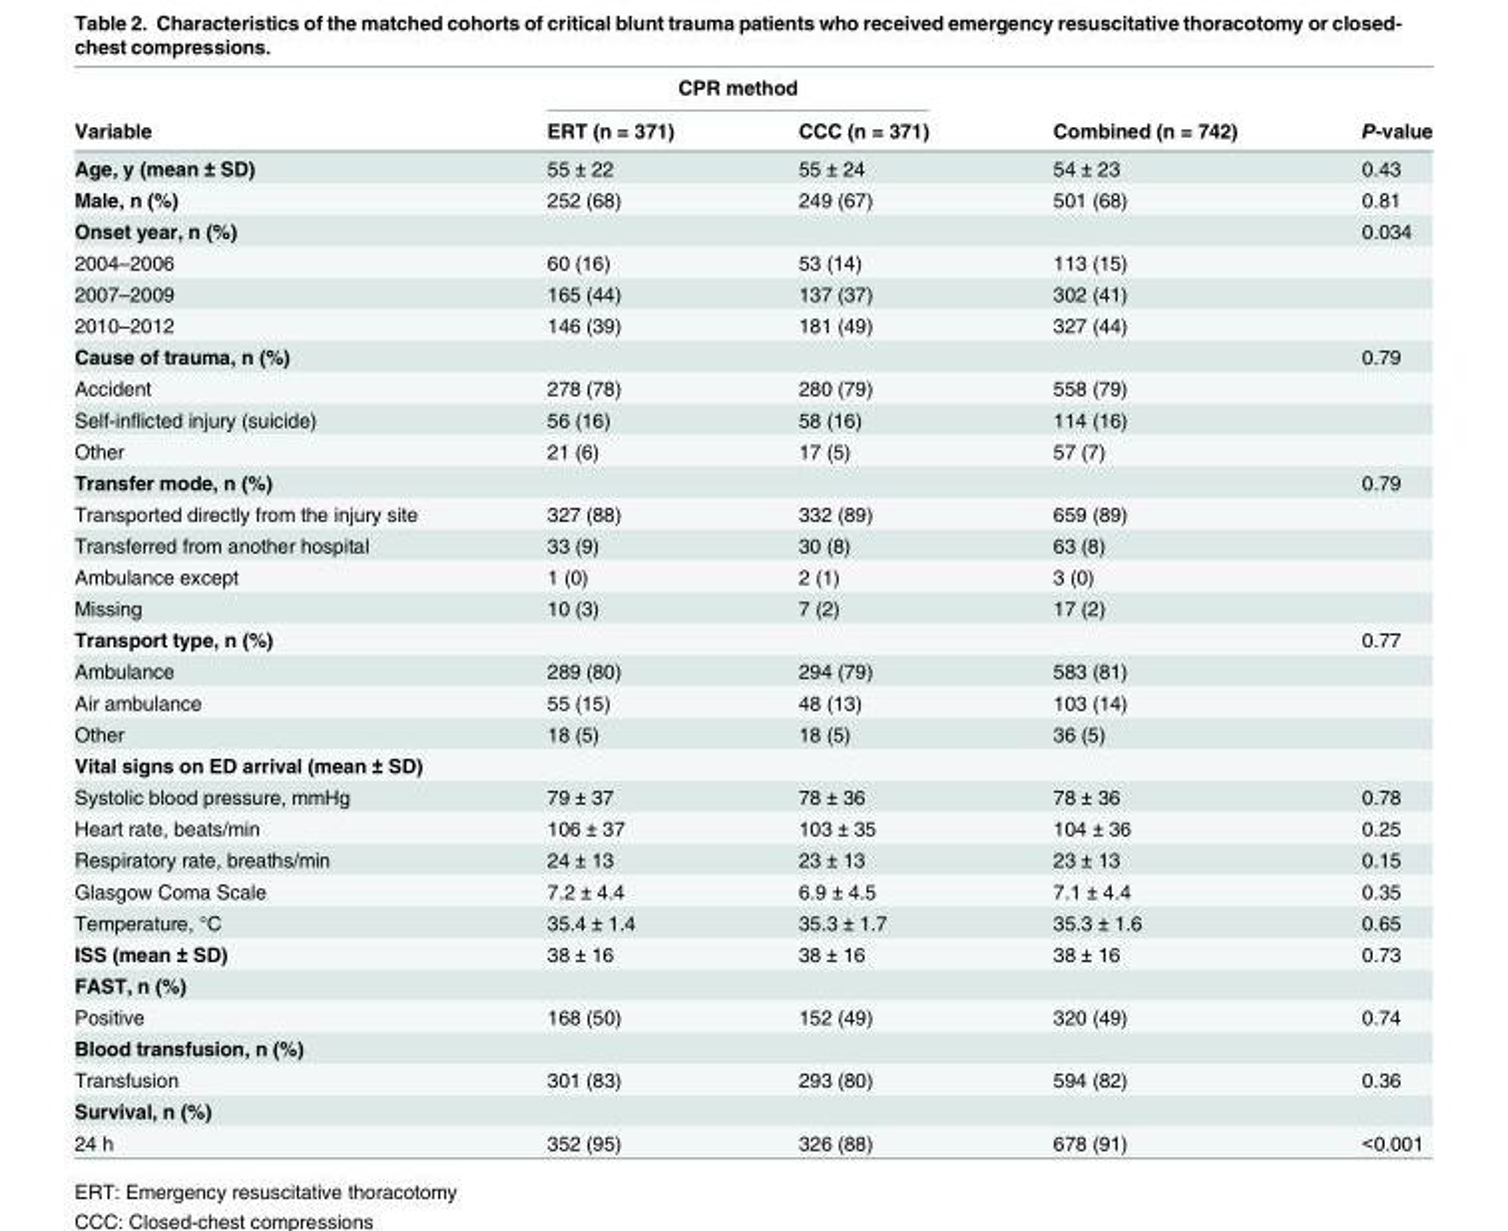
<table><thead><tr><td rowspan="2">Variable</td><td colspan="2">CPR method</td><td rowspan="2">Combined (n = 742)</td><td rowspan="2">P-value</td></tr><tr><td>ERT (n = 371)</td><td>CCC (n = 371)</td></tr></thead><tbody><tr><td>Age, y (mean ± SD)</td><td>55 ± 22</td><td>55 ± 24</td><td>54 ± 23</td><td>0.43</td></tr><tr><td>Male, n (%)</td><td>252 (68)</td><td>249 (67)</td><td>501 (68)</td><td>0.81</td></tr><tr><td>Onset year, n (%)</td><td></td><td></td><td></td><td>0.034</td></tr><tr><td>2004–2006</td><td>60 (16)</td><td>53 (14)</td><td>113 (15)</td><td></td></tr><tr><td>2007–2009</td><td>165 (44)</td><td>137 (37)</td><td>302 (41)</td><td></td></tr><tr><td>2010–2012</td><td>146 (39)</td><td>181 (49)</td><td>327 (44)</td><td></td></tr><tr><td>Cause of trauma, n (%)</td><td></td><td></td><td></td><td>0.79</td></tr><tr><td>Accident</td><td>278 (78)</td><td>280 (79)</td><td>558 (79)</td><td></td></tr><tr><td>Self-inflicted injury (suicide)</td><td>56 (16)</td><td>58 (16)</td><td>114 (16)</td><td></td></tr><tr><td>Other</td><td>21 (6)</td><td>17 (5)</td><td>57 (7)</td><td></td></tr><tr><td>Transfer mode, n (%)</td><td></td><td></td><td></td><td>0.79</td></tr><tr><td>Transported directly from the injury site</td><td>327 (88)</td><td>332 (89)</td><td>659 (89)</td><td></td></tr><tr><td>Transferred from another hospital</td><td>33 (9)</td><td>30 (8)</td><td>63 (8)</td><td></td></tr><tr><td>Ambulance except</td><td>1 (0)</td><td>2 (1)</td><td>3 (0)</td><td></td></tr><tr><td>Missing</td><td>10 (3)</td><td>7 (2)</td><td>17 (2)</td><td></td></tr><tr><td>Transport type, n (%)</td><td></td><td></td><td></td><td>0.77</td></tr><tr><td>Ambulance</td><td>289 (80)</td><td>294 (79)</td><td>583 (81)</td><td></td></tr><tr><td>Air ambulance</td><td>55 (15)</td><td>48 (13)</td><td>103 (14)</td><td></td></tr><tr><td>Other</td><td>18 (5)</td><td>18 (5)</td><td>36 (5)</td><td></td></tr><tr><td colspan="5">Vital signs on ED arrival (mean ± SD)</td></tr><tr><td>Systolic blood pressure, mmHg</td><td>79 ± 37</td><td>78 ± 36</td><td>78 ± 36</td><td>0.78</td></tr><tr><td>Heart rate, beats/min</td><td>106 ± 37</td><td>103 ± 35</td><td>104 ± 36</td><td>0.25</td></tr><tr><td>Respiratory rate, breaths/min</td><td>24 ± 13</td><td>23 ± 13</td><td>23 ± 13</td><td>0.15</td></tr><tr><td>Glasgow Coma Scale</td><td>7.2 ± 4.4</td><td>6.9 ± 4.5</td><td>7.1 ± 4.4</td><td>0.35</td></tr><tr><td>Temperature, °C</td><td>35.4 ± 1.4</td><td>35.3 ± 1.7</td><td>35.3 ± 1.6</td><td>0.65</td></tr><tr><td>ISS (mean ± SD)</td><td>38 ± 16</td><td>38 ± 16</td><td>38 ± 16</td><td>0.73</td></tr><tr><td colspan="5">FAST, n (%)</td></tr><tr><td>Positive</td><td>168 (50)</td><td>152 (49)</td><td>320 (49)</td><td>0.74</td></tr><tr><td colspan="5">Blood transfusion, n (%)</td></tr><tr><td>Transfusion</td><td>301 (83)</td><td>293 (80)</td><td>594 (82)</td><td>0.36</td></tr><tr><td colspan="5">Survival, n (%)</td></tr><tr><td>24 h</td><td>352 (95)</td><td>326 (88)</td><td>678 (91)</td><td>&lt;0.001</td></tr></tbody></table>